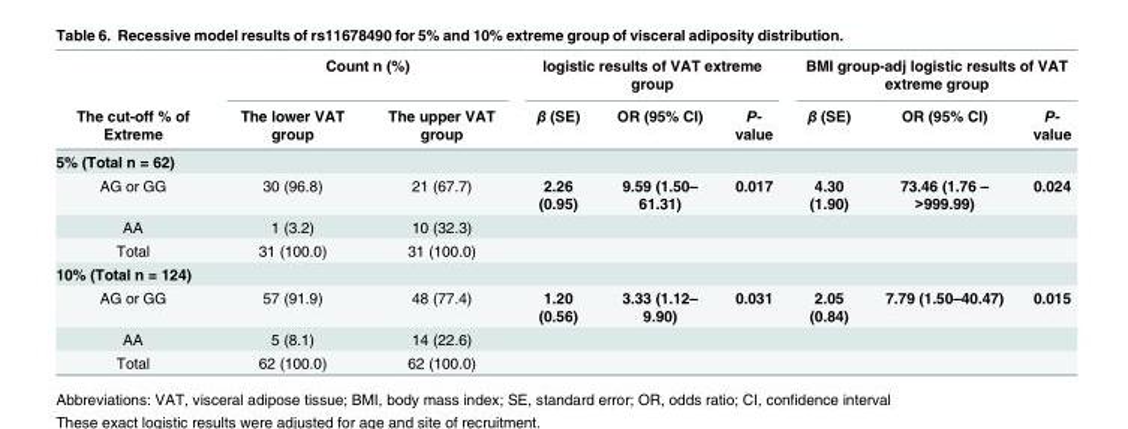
<table><thead><tr><td rowspan="2">The cut-off % of Extreme</td><td colspan="2">Count n (%)</td><td colspan="3">logistic results of VAT extreme group</td><td colspan="3">BMI group-adj logistic results of VAT extreme group</td></tr><tr><td>The lower VAT group</td><td>The upper VAT group</td><td>β (SE)</td><td>OR (95% CI)</td><td>P- value</td><td>β (SE)</td><td>OR (95% CI)</td><td>P- value</td></tr></thead><tbody><tr><td colspan="9">5% (Total n = 62)</td></tr><tr><td>AG or GG</td><td>30 (96.8)</td><td>21 (67.7)</td><td>2.26 (0.95)</td><td>9.59 (1.50– 61.31)</td><td>0.017</td><td>4.30 (1.90)</td><td>73.46 (1.76 – &gt;999.99)</td><td>0.024</td></tr><tr><td>AA</td><td>1 (3.2)</td><td>10 (32.3)</td><td></td><td></td><td></td><td></td><td></td><td></td></tr><tr><td>Total</td><td>31 (100.0)</td><td>31 (100.0)</td><td></td><td></td><td></td><td></td><td></td><td></td></tr><tr><td colspan="9">10% (Total n = 124)</td></tr><tr><td>AG or GG</td><td>57 (91.9)</td><td>48 (77.4)</td><td>1.20 (0.56)</td><td>3.33 (1.12– 9.90)</td><td>0.031</td><td>2.05 (0.84)</td><td>7.79 (1.50–40.47)</td><td>0.015</td></tr><tr><td>AA</td><td>5 (8.1)</td><td>14 (22.6)</td><td></td><td></td><td></td><td></td><td></td><td></td></tr><tr><td>Total</td><td>62 (100.0)</td><td>62 (100.0)</td><td></td><td></td><td></td><td></td><td></td><td></td></tr></tbody></table>